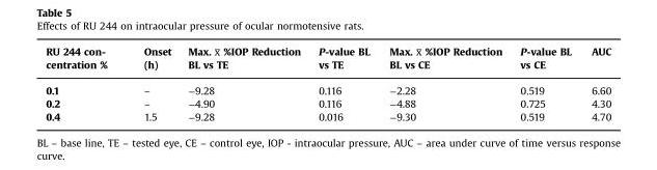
<table><thead><tr><td>RU 244 con- centration %</td><td>Onset (h)</td><td>Max. x̅ %IOP Reduction BL vs TE</td><td>P-value BL vs TE</td><td>Max. x̅ %IOP Reduction BL vs CE</td><td>P-value BL vs CE</td><td>AUC</td></tr></thead><tbody><tr><td>0.1</td><td>–</td><td>−9.28</td><td>0.116</td><td>−2.28</td><td>0.519</td><td>6.60</td></tr><tr><td>0.2</td><td>–</td><td>−4.90</td><td>0.116</td><td>−4.88</td><td>0.725</td><td>4.30</td></tr><tr><td>0.4</td><td>1.5</td><td>−9.28</td><td>0.016</td><td>−9.30</td><td>0.519</td><td>4.70</td></tr></tbody></table>